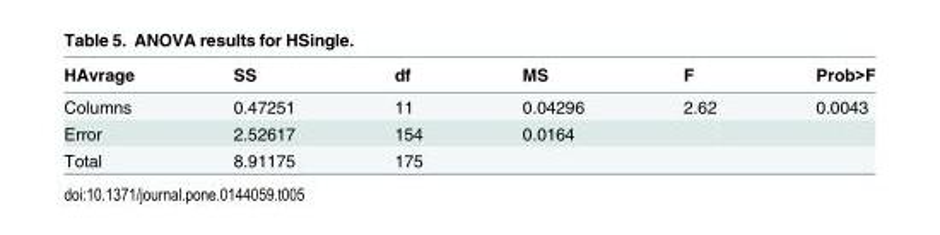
<table><thead><tr><td>HAvrage</td><td>SS</td><td>df</td><td>MS</td><td>F</td><td>Prob&gt;F</td></tr></thead><tbody><tr><td>Columns</td><td>0.47251</td><td>11</td><td>0.04296</td><td>2.62</td><td>0.0043</td></tr><tr><td>Error</td><td>2.52617</td><td>154</td><td>0.0164</td><td></td><td></td></tr><tr><td>Total</td><td>8.91175</td><td>175</td><td></td><td></td><td></td></tr></tbody></table>